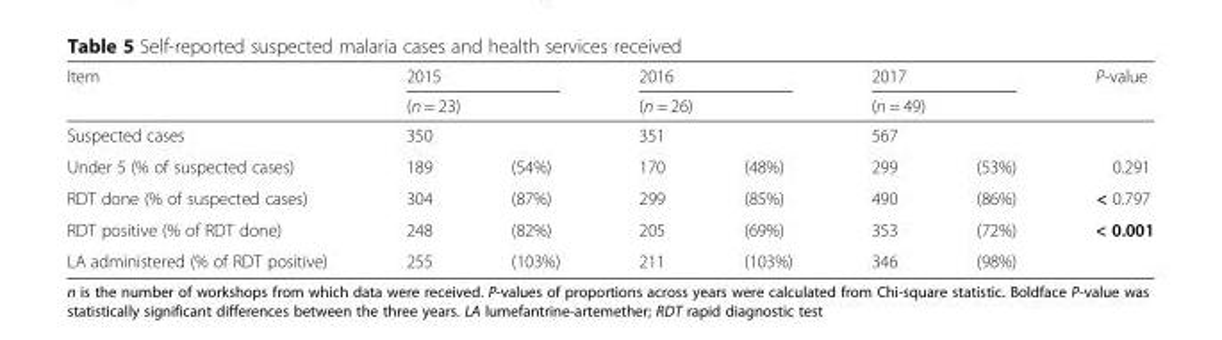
<table><thead><tr><td rowspan="3">Item Suspected cases</td><td rowspan="2" colspan="2">2015 (n = 23)</td><td rowspan="2" colspan="2">2016 (n = 26)</td><td rowspan="2" colspan="2">2017 (n = 49)</td><td rowspan="3">P-value</td></tr><tr></tr><tr><td>350</td><td></td><td>351</td><td></td><td>567</td><td></td></tr></thead><tbody><tr><td>Under 5 (% of suspected cases)</td><td>189</td><td>(54%)</td><td>170</td><td>(48%)</td><td>299</td><td>(53%)</td><td>0.291</td></tr><tr><td>RDT done (% of suspected cases)</td><td>304</td><td>(87%)</td><td>299</td><td>(85%)</td><td>490</td><td>(86%)</td><td>&lt; 0.797</td></tr><tr><td>RDT positive (% of RDT done)</td><td>248</td><td>(82%)</td><td>205</td><td>(69%)</td><td>353</td><td>(72%)</td><td>&lt; 0.001</td></tr><tr><td>LA administered (% of RDT positive)</td><td>255</td><td>(103%)</td><td>211</td><td>(103%)</td><td>346</td><td>(98%)</td><td></td></tr></tbody></table>